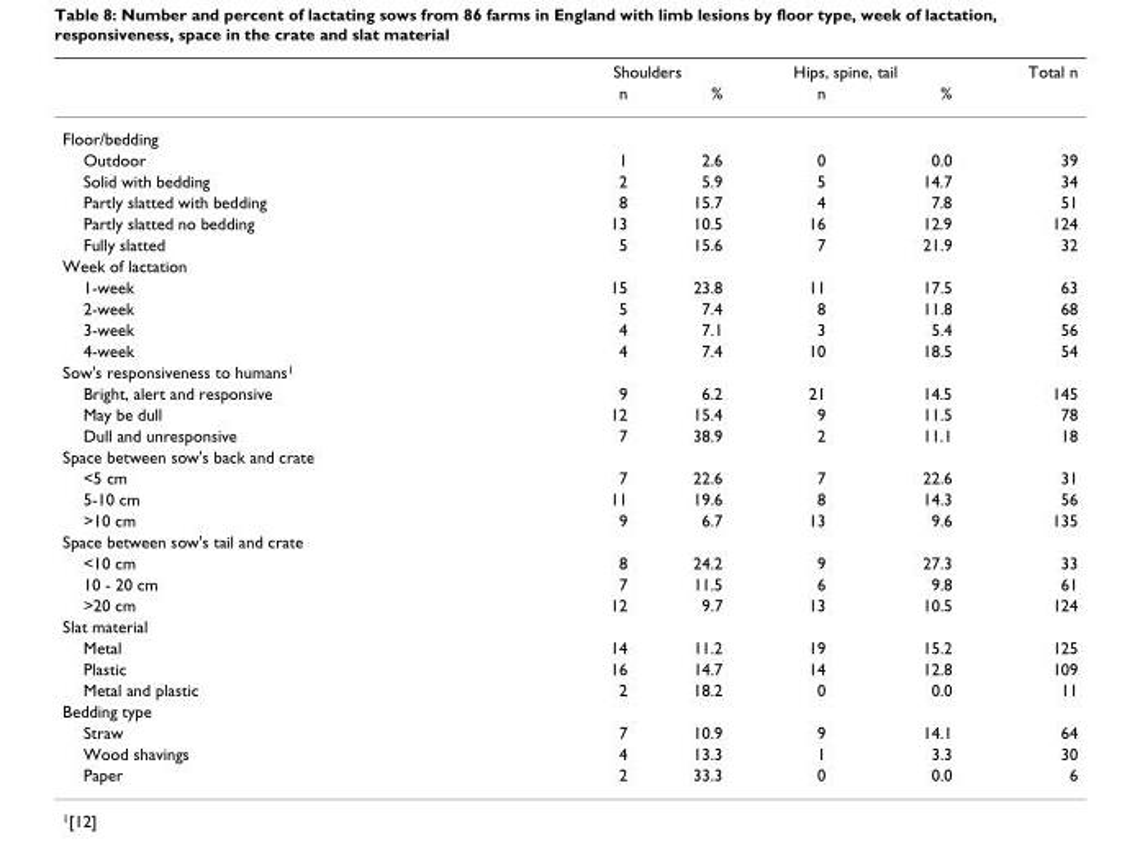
<table><thead><tr><td rowspan="2"></td><td colspan="2">Shoulders</td><td colspan="2">Hips, spine, tail</td><td rowspan="2">Total n</td></tr><tr><td>n</td><td>%</td><td>n</td><td>%</td></tr></thead><tbody><tr><td colspan="6">Floor/bedding</td></tr><tr><td>Outdoor</td><td>1</td><td>2.6</td><td>0</td><td>0.0</td><td>39</td></tr><tr><td>Solid with bedding</td><td>2</td><td>5.9</td><td>5</td><td>14.7</td><td>34</td></tr><tr><td>Partly slatted with bedding</td><td>8</td><td>15.7</td><td>4</td><td>7.8</td><td>51</td></tr><tr><td>Partly slatted no bedding</td><td>13</td><td>10.5</td><td>16</td><td>12.9</td><td>124</td></tr><tr><td>Fully slatted</td><td>5</td><td>15.6</td><td>7</td><td>21.9</td><td>32</td></tr><tr><td colspan="6">Week of lactation</td></tr><tr><td>1-week</td><td>15</td><td>23.8</td><td>11</td><td>17.5</td><td>63</td></tr><tr><td>2-week</td><td>5</td><td>7.4</td><td>8</td><td>11.8</td><td>68</td></tr><tr><td>3-week</td><td>4</td><td>7.1</td><td>3</td><td>5.4</td><td>56</td></tr><tr><td>4-week</td><td>4</td><td>7.4</td><td>10</td><td>18.5</td><td>54</td></tr><tr><td colspan="6">Sow&#x27;s responsiveness to humans<sup>1</sup></td></tr><tr><td>Bright, alert and responsive</td><td>9</td><td>6.2</td><td>21</td><td>14.5</td><td>145</td></tr><tr><td>May be dull</td><td>12</td><td>15.4</td><td>9</td><td>11.5</td><td>78</td></tr><tr><td>Dull and unresponsive</td><td>7</td><td>38.9</td><td>2</td><td>11.1</td><td>18</td></tr><tr><td colspan="6">Space between sow&#x27;s back and crate</td></tr><tr><td>&lt;5 cm</td><td>7</td><td>22.6</td><td>7</td><td>22.6</td><td>31</td></tr><tr><td>5-10 cm</td><td>11</td><td>19.6</td><td>8</td><td>14.3</td><td>56</td></tr><tr><td>&gt;10 cm</td><td>9</td><td>6.7</td><td>13</td><td>9.6</td><td>135</td></tr><tr><td colspan="6">Space between sow&#x27;s tail and crate</td></tr><tr><td>&lt;10 cm</td><td>8</td><td>24.2</td><td>9</td><td>27.3</td><td>33</td></tr><tr><td>10 - 20 cm</td><td>7</td><td>11.5</td><td>6</td><td>9.8</td><td>61</td></tr><tr><td>&gt;20 cm</td><td>12</td><td>9.7</td><td>13</td><td>10.5</td><td>124</td></tr><tr><td colspan="6">Slat material</td></tr><tr><td>Metal</td><td>14</td><td>11.2</td><td>19</td><td>15.2</td><td>125</td></tr><tr><td>Plastic</td><td>16</td><td>14.7</td><td>14</td><td>12.8</td><td>109</td></tr><tr><td>Metal and plastic</td><td>2</td><td>18.2</td><td>0</td><td>0.0</td><td>11</td></tr><tr><td colspan="6">Bedding type</td></tr><tr><td>Straw</td><td>7</td><td>10.9</td><td>9</td><td>14.1</td><td>64</td></tr><tr><td>Wood shavings</td><td>4</td><td>13.3</td><td>1</td><td>3.3</td><td>30</td></tr><tr><td>Paper</td><td>2</td><td>33.3</td><td>0</td><td>0.0</td><td>6</td></tr></tbody></table>